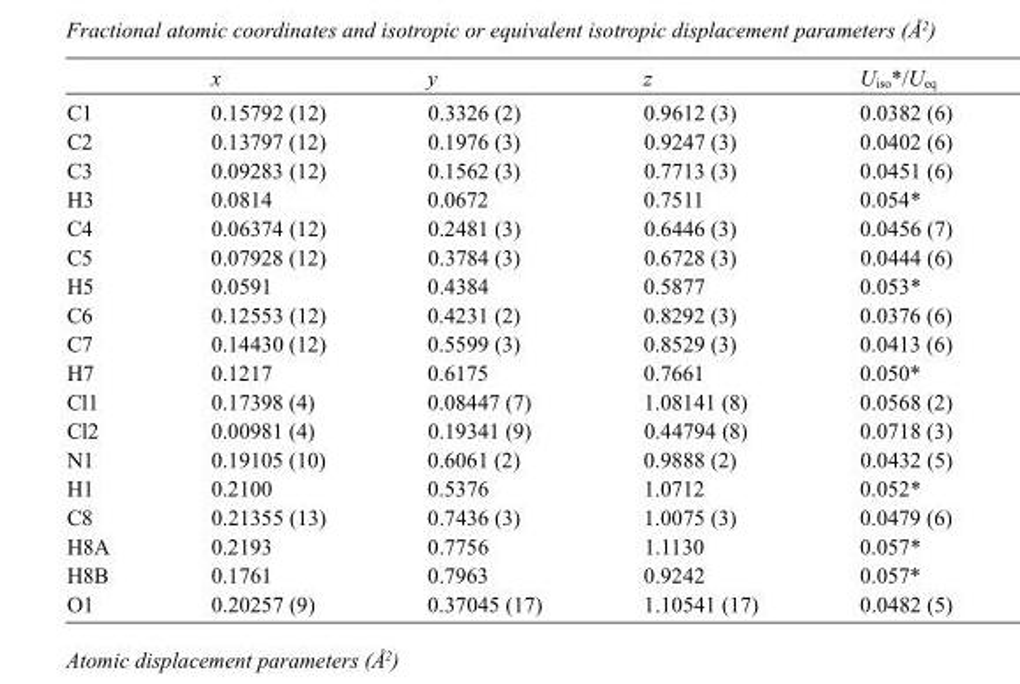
<table><thead><tr><td></td><td>x</td><td>y</td><td>z</td><td>U<sub>iso</sub>*/U<sub>eq</sub></td></tr></thead><tbody><tr><td>C1</td><td>0.15792 (12)</td><td>0.3326 (2)</td><td>0.9612 (3)</td><td>0.0382 (6)</td></tr><tr><td>C2</td><td>0.13797 (12)</td><td>0.1976 (3)</td><td>0.9247 (3)</td><td>0.0402 (6)</td></tr><tr><td>C3</td><td>0.09283 (12)</td><td>0.1562 (3)</td><td>0.7713 (3)</td><td>0.0451 (6)</td></tr><tr><td>H3</td><td>0.0814</td><td>0.0672</td><td>0.7511</td><td>0.054*</td></tr><tr><td>C4</td><td>0.06374 (12)</td><td>0.2481 (3)</td><td>0.6446 (3)</td><td>0.0456 (7)</td></tr><tr><td>C5</td><td>0.07928 (12)</td><td>0.3784 (3)</td><td>0.6728 (3)</td><td>0.0444 (6)</td></tr><tr><td>H5</td><td>0.0591</td><td>0.4384</td><td>0.5877</td><td>0.053*</td></tr><tr><td>C6</td><td>0.12553 (12)</td><td>0.4231 (2)</td><td>0.8292 (3)</td><td>0.0376 (6)</td></tr><tr><td>C7</td><td>0.14430 (12)</td><td>0.5599 (3)</td><td>0.8529 (3)</td><td>0.0413 (6)</td></tr><tr><td>H7</td><td>0.1217</td><td>0.6175</td><td>0.7661</td><td>0.050*</td></tr><tr><td>Cl1</td><td>0.17398 (4)</td><td>0.08447 (7)</td><td>1.08141 (8)</td><td>0.0568 (2)</td></tr><tr><td>Cl2</td><td>0.00981 (4)</td><td>0.19341 (9)</td><td>0.44794 (8)</td><td>0.0718 (3)</td></tr><tr><td>N1</td><td>0.19105 (10)</td><td>0.6061 (2)</td><td>0.9888 (2)</td><td>0.0432 (5)</td></tr><tr><td>H1</td><td>0.2100</td><td>0.5376</td><td>1.0712</td><td>0.052*</td></tr><tr><td>C8</td><td>0.21355 (13)</td><td>0.7436 (3)</td><td>1.0075 (3)</td><td>0.0479 (6)</td></tr><tr><td>H8A</td><td>0.2193</td><td>0.7756</td><td>1.1130</td><td>0.057*</td></tr><tr><td>H8B</td><td>0.1761</td><td>0.7963</td><td>0.9242</td><td>0.057*</td></tr><tr><td>O1</td><td>0.20257 (9)</td><td>0.37045 (17)</td><td>1.10541 (17)</td><td>0.0482 (5)</td></tr></tbody></table>